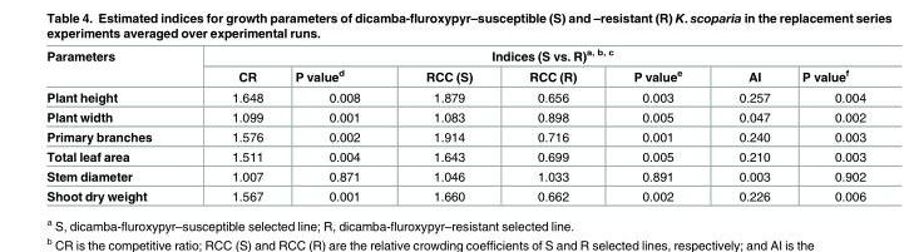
<table><thead><tr><td rowspan="2">Parameters</td><td colspan="7">Indices (S vs. R)<sup>a, b, c</sup></td></tr><tr><td>CR</td><td>P value<sup>d</sup></td><td>RCC (S)</td><td>RCC (R)</td><td>P value<sup>e</sup></td><td>AI</td><td>P value<sup>f</sup></td></tr></thead><tbody><tr><td>Plant height</td><td>1.648</td><td>0.008</td><td>1.879</td><td>0.656</td><td>0.003</td><td>0.257</td><td>0.004</td></tr><tr><td>Plant width</td><td>1.099</td><td>0.001</td><td>1.083</td><td>0.898</td><td>0.005</td><td>0.047</td><td>0.002</td></tr><tr><td>Primary branches</td><td>1.576</td><td>0.002</td><td>1.914</td><td>0.716</td><td>0.001</td><td>0.240</td><td>0.003</td></tr><tr><td>Total leaf area</td><td>1.511</td><td>0.004</td><td>1.643</td><td>0.699</td><td>0.005</td><td>0.210</td><td>0.003</td></tr><tr><td>Stem diameter</td><td>1.007</td><td>0.871</td><td>1.046</td><td>1.033</td><td>0.891</td><td>0.003</td><td>0.902</td></tr><tr><td>Shoot dry weight</td><td>1.567</td><td>0.001</td><td>1.660</td><td>0.662</td><td>0.002</td><td>0.226</td><td>0.006</td></tr></tbody></table>